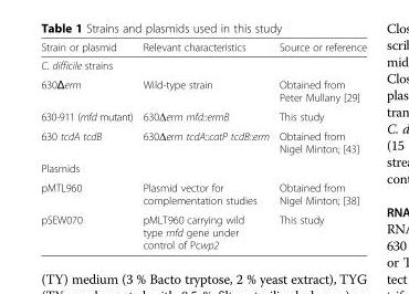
<table><thead><tr><td>Strain or plasmid</td><td>Relevant characteristics</td><td>Source or reference</td></tr></thead><tbody><tr><td colspan="3">C. difficile strains</td></tr><tr><td>630Δerm</td><td>Wild-type strain</td><td>Obtained from Peter Mullany [29]</td></tr><tr><td>630-911 (mfd mutant)</td><td>630Δerm mfd::ermB</td><td>This study</td></tr><tr><td>630 tcdA tcdB</td><td>630Δerm tcdA::catP tcdB::erm</td><td>Obtained from Nigel Minton; [43]</td></tr><tr><td colspan="3">Plasmids</td></tr><tr><td>pMTL960</td><td>Plasmid vector for complementation studies</td><td>Obtained from Nigel Minton; [38]</td></tr><tr><td>pSEW070</td><td>pMLT960 carrying wild type mfd gene under control of Pcwp2</td><td>This study</td></tr></tbody></table>